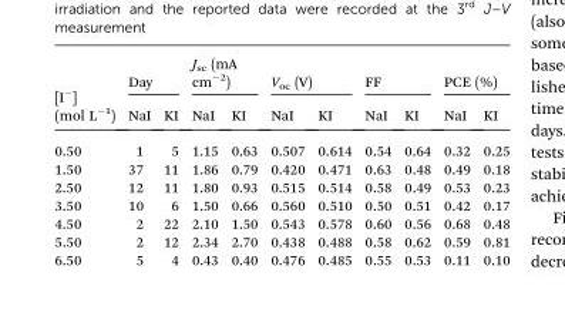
<table><thead><tr><td rowspan="2">[I<sup>–</sup>] (mol L<sup>–1</sup>)</td><td colspan="2">Day</td><td colspan="2">J<sub>sc</sub> (mA cm<sup>–2</sup>)</td><td colspan="2">V<sub>oc</sub> (V)</td><td colspan="2">FF</td><td colspan="2">PCE (%)</td></tr><tr><td>NaI</td><td>KI</td><td>NaI</td><td>KI</td><td>NaI</td><td>KI</td><td>NaI</td><td>KI</td><td>NaI</td><td>KI</td></tr></thead><tbody><tr><td>0.50</td><td>1</td><td>5</td><td>1.15</td><td>0.63</td><td>0.507</td><td>0.614</td><td>0.54</td><td>0.64</td><td>0.32</td><td>0.25</td></tr><tr><td>1.50</td><td>37</td><td>11</td><td>1.86</td><td>0.79</td><td>0.420</td><td>0.471</td><td>0.63</td><td>0.48</td><td>0.49</td><td>0.18</td></tr><tr><td>2.50</td><td>12</td><td>11</td><td>1.80</td><td>0.93</td><td>0.515</td><td>0.514</td><td>0.58</td><td>0.49</td><td>0.53</td><td>0.23</td></tr><tr><td>3.50</td><td>10</td><td>6</td><td>1.50</td><td>0.66</td><td>0.560</td><td>0.510</td><td>0.50</td><td>0.51</td><td>0.42</td><td>0.17</td></tr><tr><td>4.50</td><td>2</td><td>22</td><td>2.10</td><td>1.50</td><td>0.543</td><td>0.578</td><td>0.60</td><td>0.56</td><td>0.68</td><td>0.48</td></tr><tr><td>5.50</td><td>2</td><td>12</td><td>2.34</td><td>2.70</td><td>0.438</td><td>0.488</td><td>0.58</td><td>0.62</td><td>0.59</td><td>0.81</td></tr><tr><td>6.50</td><td>5</td><td>4</td><td>0.43</td><td>0.40</td><td>0.476</td><td>0.485</td><td>0.55</td><td>0.53</td><td>0.11</td><td>0.10</td></tr></tbody></table>